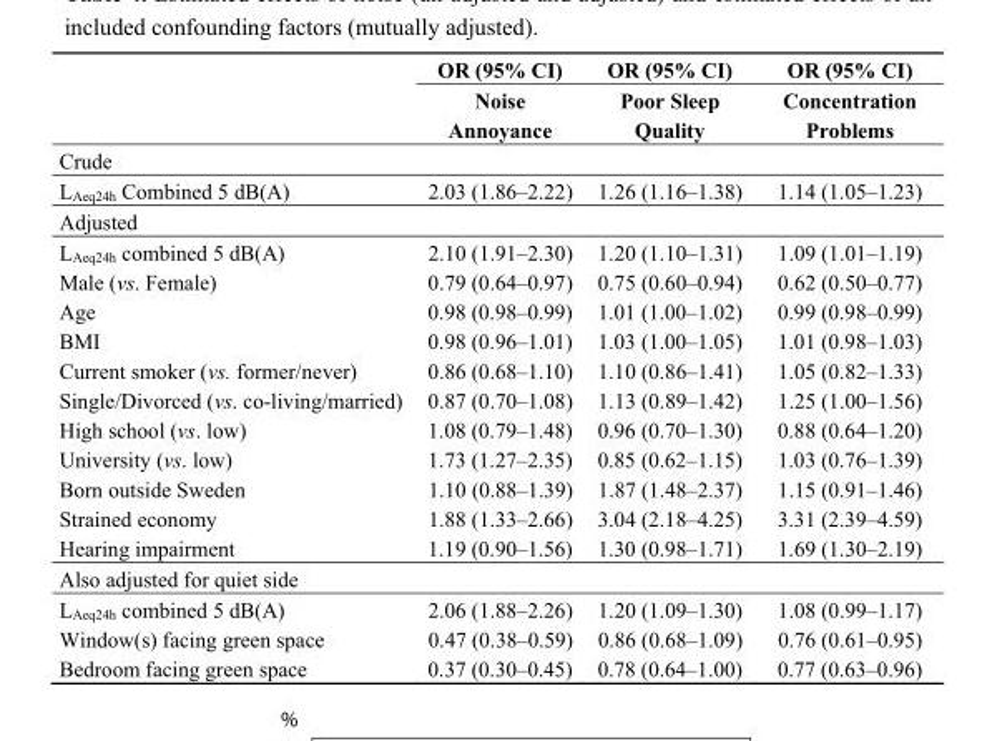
<table><thead><tr><td rowspan="2"></td><td rowspan="2">OR (95% CI) Noise Annoyance</td><td rowspan="2">OR (95% CI) Poor Sleep Quality</td><td rowspan="2">OR (95% CI) Concentration Problems</td></tr><tr></tr></thead><tbody><tr><td colspan="4">Crude</td></tr><tr><td>L<sub>Aeq24h</sub> Combined 5 dB(A)</td><td>2.03 (1.86–2.22)</td><td>1.26 (1.16–1.38)</td><td>1.14 (1.05–1.23)</td></tr><tr><td colspan="4">Adjusted</td></tr><tr><td>L<sub>Aeq24h</sub> combined 5 dB(A)</td><td>2.10 (1.91–2.30)</td><td>1.20 (1.10–1.31)</td><td>1.09 (1.01–1.19)</td></tr><tr><td>Male (vs. Female)</td><td>0.79 (0.64–0.97)</td><td>0.75 (0.60–0.94)</td><td>0.62 (0.50–0.77)</td></tr><tr><td>Age</td><td>0.98 (0.98–0.99)</td><td>1.01 (1.00–1.02)</td><td>0.99 (0.98–0.99)</td></tr><tr><td>BMI</td><td>0.98 (0.96–1.01)</td><td>1.03 (1.00–1.05)</td><td>1.01 (0.98–1.03)</td></tr><tr><td>Current smoker (vs. former/never)</td><td>0.86 (0.68–1.10)</td><td>1.10 (0.86–1.41)</td><td>1.05 (0.82–1.33)</td></tr><tr><td>Single/Divorced (vs. co-living/married)</td><td>0.87 (0.70–1.08)</td><td>1.13 (0.89–1.42)</td><td>1.25 (1.00–1.56)</td></tr><tr><td>High school (vs. low)</td><td>1.08 (0.79–1.48)</td><td>0.96 (0.70–1.30)</td><td>0.88 (0.64–1.20)</td></tr><tr><td>University (vs. low)</td><td>1.73 (1.27–2.35)</td><td>0.85 (0.62–1.15)</td><td>1.03 (0.76–1.39)</td></tr><tr><td>Born outside Sweden</td><td>1.10 (0.88–1.39)</td><td>1.87 (1.48–2.37)</td><td>1.15 (0.91–1.46)</td></tr><tr><td>Strained economy</td><td>1.88 (1.33–2.66)</td><td>3.04 (2.18–4.25)</td><td>3.31 (2.39–4.59)</td></tr><tr><td>Hearing impairment</td><td>1.19 (0.90–1.56)</td><td>1.30 (0.98–1.71)</td><td>1.69 (1.30–2.19)</td></tr><tr><td colspan="4">Also adjusted for quiet side</td></tr><tr><td>L<sub>Aeq24h</sub> combined 5 dB(A)</td><td>2.06 (1.88–2.26)</td><td>1.20 (1.09–1.30)</td><td>1.08 (0.99–1.17)</td></tr><tr><td>Window(s) facing green space</td><td>0.47 (0.38–0.59)</td><td>0.86 (0.68–1.09)</td><td>0.76 (0.61–0.95)</td></tr><tr><td>Bedroom facing green space</td><td>0.37 (0.30–0.45)</td><td>0.78 (0.64–1.00)</td><td>0.77 (0.63–0.96)</td></tr></tbody></table>